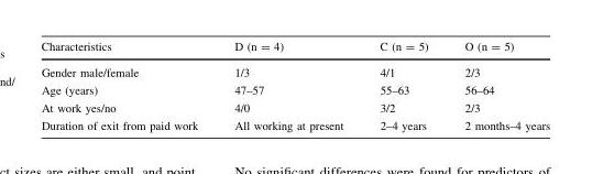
<table><thead><tr><td>Characteristics</td><td>D (n = 4)</td><td>C (n = 5)</td><td>O (n = 5)</td></tr></thead><tbody><tr><td>Gender male/female</td><td>1/3</td><td>4/1</td><td>2/3</td></tr><tr><td>Age (years)</td><td>47–57</td><td>55–63</td><td>56–64</td></tr><tr><td>At work yes/no</td><td>4/0</td><td>3/2</td><td>2/3</td></tr><tr><td>Duration of exit from paid work</td><td>All working at present</td><td>2–4 years</td><td>2 months–4 years</td></tr></tbody></table>